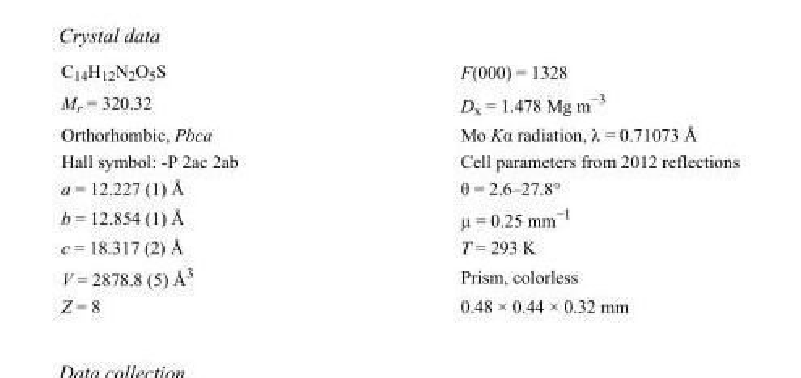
<table><tbody><tr><td>C<sub>14</sub>H<sub>12</sub>N<sub>2</sub>O<sub>5</sub>S</td><td>F(000) = 1328</td></tr><tr><td>M<sub>r</sub> = 320.32</td><td>D<sub>x</sub> = 1.478 Mg m<sup>−3</sup></td></tr><tr><td>Orthorhombic, Pbca</td><td>Mo Kα radiation, λ = 0.71073 Å</td></tr><tr><td>Hall symbol: -P 2ac 2ab</td><td>Cell parameters from 2012 reflections</td></tr><tr><td>a = 12.227 (1) Å</td><td>θ = 2.6–27.8°</td></tr><tr><td>b = 12.854 (1) Å</td><td>µ = 0.25 mm<sup>−1</sup></td></tr><tr><td>c = 18.317 (2) Å</td><td>T = 293 K</td></tr><tr><td>V = 2878.8 (5) Å<sup>3</sup></td><td>Prism, colorless</td></tr><tr><td>Z = 8</td><td>0.48 × 0.44 × 0.32 mm</td></tr></tbody></table>